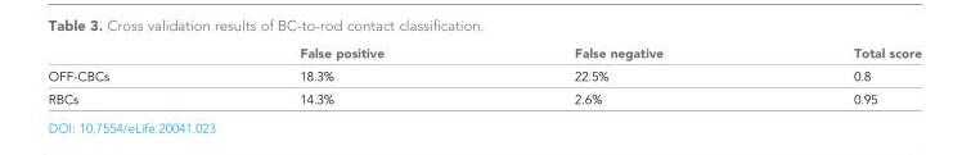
<table><thead><tr><td></td><td>False positive</td><td>False negative</td><td>Total score</td></tr></thead><tbody><tr><td>OFF-CBCs</td><td>18.3%</td><td>22.5%</td><td>0.8</td></tr><tr><td>RBCs</td><td>14.3%</td><td>2.6%</td><td>0.95</td></tr></tbody></table>